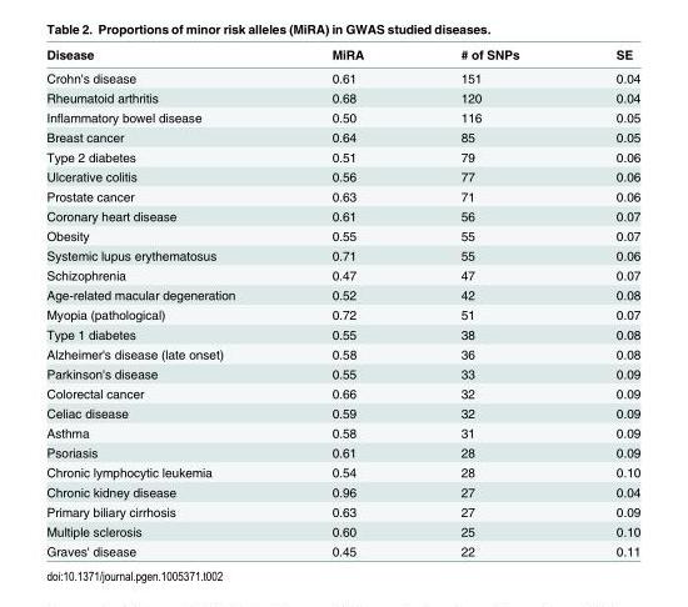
<table><thead><tr><td>Disease</td><td>MiRA</td><td># of SNPs</td><td>SE</td></tr></thead><tbody><tr><td>Crohn&#x27;s disease</td><td>0.61</td><td>151</td><td>0.04</td></tr><tr><td>Rheumatoid arthritis</td><td>0.68</td><td>120</td><td>0.04</td></tr><tr><td>Inflammatory bowel disease</td><td>0.50</td><td>116</td><td>0.05</td></tr><tr><td>Breast cancer</td><td>0.64</td><td>85</td><td>0.05</td></tr><tr><td>Type 2 diabetes</td><td>0.51</td><td>79</td><td>0.06</td></tr><tr><td>Ulcerative colitis</td><td>0.56</td><td>77</td><td>0.06</td></tr><tr><td>Prostate cancer</td><td>0.63</td><td>71</td><td>0.06</td></tr><tr><td>Coronary heart disease</td><td>0.61</td><td>56</td><td>0.07</td></tr><tr><td>Obesity</td><td>0.55</td><td>55</td><td>0.07</td></tr><tr><td>Systemic lupus erythematosus</td><td>0.71</td><td>55</td><td>0.06</td></tr><tr><td>Schizophrenia</td><td>0.47</td><td>47</td><td>0.07</td></tr><tr><td>Age-related macular degeneration</td><td>0.52</td><td>42</td><td>0.08</td></tr><tr><td>Myopia (pathological)</td><td>0.72</td><td>51</td><td>0.07</td></tr><tr><td>Type 1 diabetes</td><td>0.55</td><td>38</td><td>0.08</td></tr><tr><td>Alzheimer&#x27;s disease (late onset)</td><td>0.58</td><td>36</td><td>0.08</td></tr><tr><td>Parkinson&#x27;s disease</td><td>0.55</td><td>33</td><td>0.09</td></tr><tr><td>Colorectal cancer</td><td>0.66</td><td>32</td><td>0.09</td></tr><tr><td>Celiac disease</td><td>0.59</td><td>32</td><td>0.09</td></tr><tr><td>Asthma</td><td>0.58</td><td>31</td><td>0.09</td></tr><tr><td>Psoriasis</td><td>0.61</td><td>28</td><td>0.09</td></tr><tr><td>Chronic lymphocytic leukemia</td><td>0.54</td><td>28</td><td>0.10</td></tr><tr><td>Chronic kidney disease</td><td>0.96</td><td>27</td><td>0.04</td></tr><tr><td>Primary biliary cirrhosis</td><td>0.63</td><td>27</td><td>0.09</td></tr><tr><td>Multiple sclerosis</td><td>0.60</td><td>25</td><td>0.10</td></tr><tr><td>Graves&#x27; disease</td><td>0.45</td><td>22</td><td>0.11</td></tr></tbody></table>